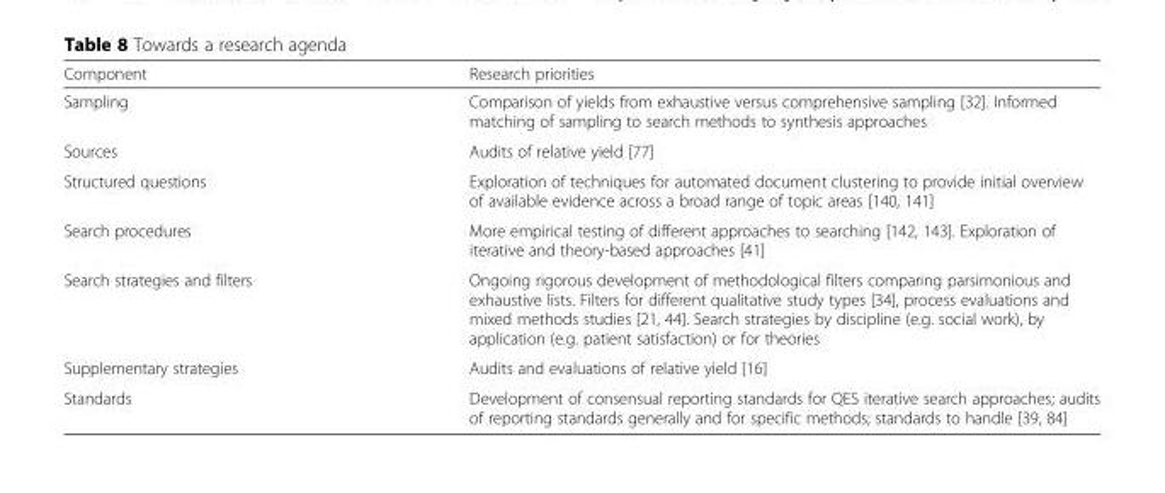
<table><thead><tr><td>Component</td><td>Research priorities</td></tr></thead><tbody><tr><td>Sampling</td><td>Comparison of yields from exhaustive versus comprehensive sampling [32]. Informed matching of sampling to search methods to synthesis approaches</td></tr><tr><td>Sources</td><td>Audits of relative yield [77]</td></tr><tr><td>Structured questions</td><td>Exploration of techniques for automated document clustering to provide initial overview of available evidence across a broad range of topic areas [140, 141]</td></tr><tr><td>Search procedures</td><td>More empirical testing of different approaches to searching [142, 143]. Exploration of iterative and theory-based approaches [41]</td></tr><tr><td>Search strategies and filters</td><td>Ongoing rigorous development of methodological filters comparing parsimonious and exhaustive lists. Filters for different qualitative study types [34], process evaluations and mixed methods studies [21, 44]. Search strategies by discipline (e.g. social work), by application (e.g. patient satisfaction) or for theories</td></tr><tr><td>Supplementary strategies</td><td>Audits and evaluations of relative yield [16]</td></tr><tr><td>Standards</td><td>Development of consensual reporting standards for QES iterative search approaches; audits of reporting standards generally and for specific methods; standards to handle [39, 84]</td></tr></tbody></table>